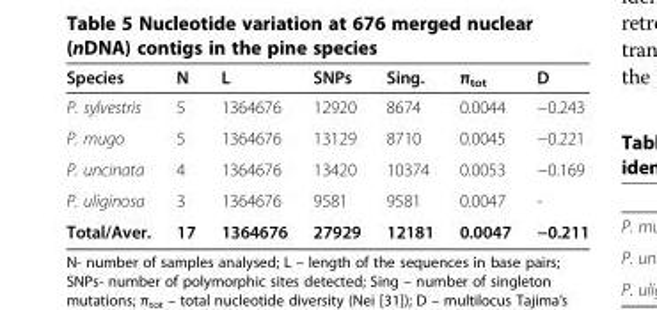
<table><thead><tr><td>Species</td><td>N</td><td>L</td><td>SNPs</td><td>Sing.</td><td>π<sub>tot</sub></td><td>D</td></tr></thead><tbody><tr><td>P. sylvestris</td><td>5</td><td>1364676</td><td>12920</td><td>8674</td><td>0.0044</td><td>−0.243</td></tr><tr><td>P. mugo</td><td>5</td><td>1364676</td><td>13129</td><td>8710</td><td>0.0045</td><td>−0.221</td></tr><tr><td>P. uncinata</td><td>4</td><td>1364676</td><td>13420</td><td>10374</td><td>0.0053</td><td>−0.169</td></tr><tr><td>P. uliginosa</td><td>3</td><td>1364676</td><td>9581</td><td>9581</td><td>0.0047</td><td>-</td></tr><tr><td>Total/Aver.</td><td>17</td><td>1364676</td><td>27929</td><td>12181</td><td>0.0047</td><td>−0.211</td></tr></tbody></table>